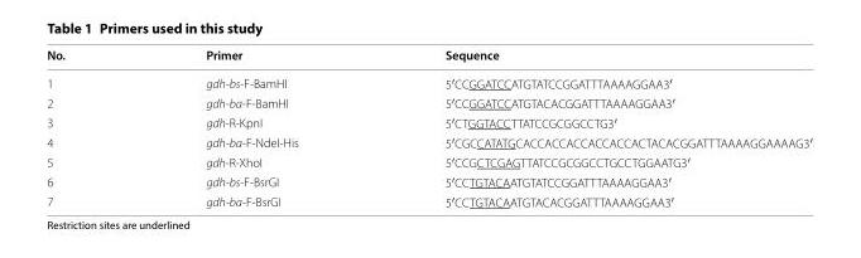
<table><thead><tr><td>No.</td><td>Primer</td><td>Sequence</td></tr></thead><tbody><tr><td>1</td><td>gdh-bs-F-BamHI</td><td>5′CCGGATCCATGTATCCGGATTTAAAAGGAA3′</td></tr><tr><td>2</td><td>gdh-ba-F-BamHI</td><td>5′CCGGATCCATGTACACGGATTTAAAAGGAA3′</td></tr><tr><td>3</td><td>gdh-R-KpnI</td><td>5′CTGGTACCTTATCCGCGGCCTG3′</td></tr><tr><td>4</td><td>gdh-ba-F-NdeI-His</td><td>5′CGCCATATGCACCACCACCACCACCACTACACGGATTTAAAAGGAAAAG3′</td></tr><tr><td>5</td><td>gdh-R-XhoI</td><td>5′CCGCTCGAGTTATCCGCGGCCTGCCTGGAATG3′</td></tr><tr><td>6</td><td>gdh-bs-F-BsrGI</td><td>5′CCTGTACAATGTATCCGGATTTAAAAGGAA3′</td></tr><tr><td>7</td><td>gdh-ba-F-BsrGI</td><td>5′CCTGTACAATGTACACGGATTTAAAAGGAA3′</td></tr></tbody></table>